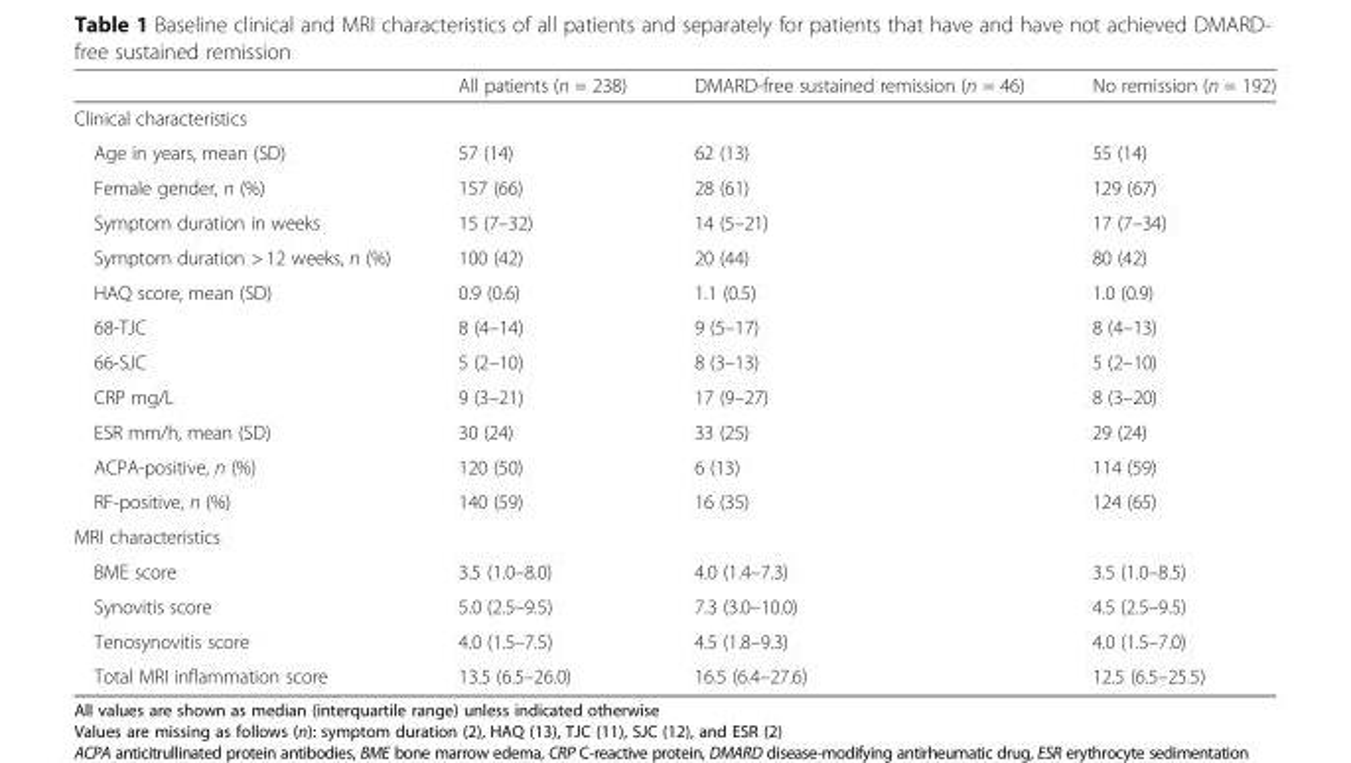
<table><thead><tr><td></td><td>All patients (n = 238)</td><td>DMARD-free sustained remission (n = 46)</td><td>No remission (n = 192)</td></tr></thead><tbody><tr><td colspan="4">Clinical characteristics</td></tr><tr><td>Age in years, mean (SD)</td><td>57 (14)</td><td>62 (13)</td><td>55 (14)</td></tr><tr><td>Female gender, n (%)</td><td>157 (66)</td><td>28 (61)</td><td>129 (67)</td></tr><tr><td>Symptom duration in weeks</td><td>15 (7–32)</td><td>14 (5–21)</td><td>17 (7–34)</td></tr><tr><td>Symptom duration &gt; 12 weeks, n (%)</td><td>100 (42)</td><td>20 (44)</td><td>80 (42)</td></tr><tr><td>HAQ score, mean (SD)</td><td>0.9 (0.6)</td><td>1.1 (0.5)</td><td>1.0 (0.9)</td></tr><tr><td>68-TJC</td><td>8 (4–14)</td><td>9 (5–17)</td><td>8 (4–13)</td></tr><tr><td>66-SJC</td><td>5 (2–10)</td><td>8 (3–13)</td><td>5 (2–10)</td></tr><tr><td>CRP mg/L</td><td>9 (3–21)</td><td>17 (9–27)</td><td>8 (3–20)</td></tr><tr><td>ESR mm/h, mean (SD)</td><td>30 (24)</td><td>33 (25)</td><td>29 (24)</td></tr><tr><td>ACPA-positive, n (%)</td><td>120 (50)</td><td>6 (13)</td><td>114 (59)</td></tr><tr><td>RF-positive, n (%)</td><td>140 (59)</td><td>16 (35)</td><td>124 (65)</td></tr><tr><td colspan="4">MRI characteristics</td></tr><tr><td>BME score</td><td>3.5 (1.0–8.0)</td><td>4.0 (1.4–7.3)</td><td>3.5 (1.0–8.5)</td></tr><tr><td>Synovitis score</td><td>5.0 (2.5–9.5)</td><td>7.3 (3.0–10.0)</td><td>4.5 (2.5–9.5)</td></tr><tr><td>Tenosynovitis score</td><td>4.0 (1.5–7.5)</td><td>4.5 (1.8–9.3)</td><td>4.0 (1.5–7.0)</td></tr><tr><td>Total MRI inflammation score</td><td>13.5 (6.5–26.0)</td><td>16.5 (6.4–27.6)</td><td>12.5 (6.5–25.5)</td></tr></tbody></table>